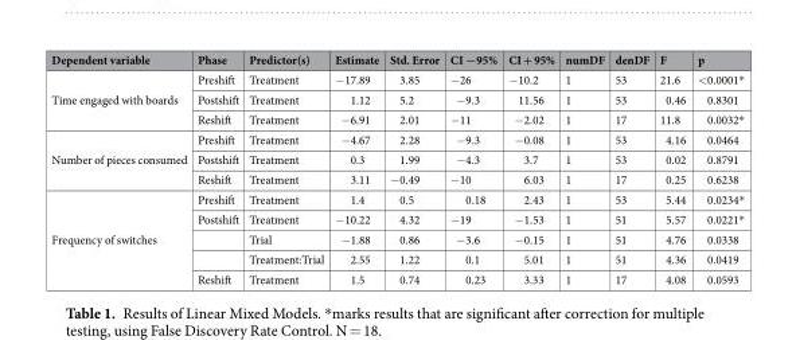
<table><thead><tr><td>Dependent variable</td><td>Phase</td><td>Predictor(s)</td><td>Estimate</td><td>Std. Error</td><td>CI −95%</td><td>CI + 95%</td><td>numDF</td><td>denDF</td><td>F</td><td>p</td></tr></thead><tbody><tr><td rowspan="3">Time engaged with boards</td><td>Preshift</td><td>Treatment</td><td>−17.89</td><td>3.85</td><td>−26</td><td>−10.2</td><td>1</td><td>53</td><td>21.6</td><td>&lt;0.0001*</td></tr><tr><td>Postshift</td><td>Treatment</td><td>1.12</td><td>5.2</td><td>−9.3</td><td>11.56</td><td>1</td><td>53</td><td>0.46</td><td>0.8301</td></tr><tr><td>Reshift</td><td>Treatment</td><td>−6.91</td><td>2.01</td><td>−11</td><td>−2.02</td><td>1</td><td>17</td><td>11.8</td><td>0.0032*</td></tr><tr><td rowspan="3">Number of pieces consumed</td><td>Preshift</td><td>Treatment</td><td>−4.67</td><td>2.28</td><td>−9.3</td><td>−0.08</td><td>1</td><td>53</td><td>4.16</td><td>0.0464</td></tr><tr><td>Postshift</td><td>Treatment</td><td>0.3</td><td>1.99</td><td>−4.3</td><td>3.7</td><td>1</td><td>53</td><td>0.02</td><td>0.8791</td></tr><tr><td>Reshift</td><td>Treatment</td><td>3.11</td><td>−0.49</td><td>−10</td><td>6.03</td><td>1</td><td>17</td><td>0.25</td><td>0.6238</td></tr><tr><td rowspan="5">Frequency of switches</td><td>Preshift</td><td>Treatment</td><td>1.4</td><td>0.5</td><td>0.18</td><td>2.43</td><td>1</td><td>53</td><td>5.44</td><td>0.0234*</td></tr><tr><td>Postshift</td><td>Treatment</td><td>−10.22</td><td>4.32</td><td>−19</td><td>−1.53</td><td>1</td><td>51</td><td>5.57</td><td>0.0221*</td></tr><tr><td></td><td>Trial</td><td>−1.88</td><td>0.86</td><td>−3.6</td><td>−0.15</td><td>1</td><td>51</td><td>4.76</td><td>0.0338</td></tr><tr><td></td><td>Treatment:Trial</td><td>2.55</td><td>1.22</td><td>0.1</td><td>5.01</td><td>1</td><td>51</td><td>4.36</td><td>0.0419</td></tr><tr><td>Reshift</td><td>Treatment</td><td>1.5</td><td>0.74</td><td>0.23</td><td>3.33</td><td>1</td><td>17</td><td>4.08</td><td>0.0593</td></tr></tbody></table>